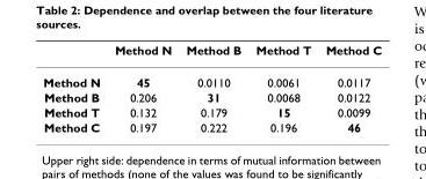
<table><thead><tr><td></td><td>Method N</td><td>Method B</td><td>Method T</td><td>Method C</td></tr></thead><tbody><tr><td>Method N</td><td>45</td><td>0.0110</td><td>0.0061</td><td>0.0117</td></tr><tr><td>Method B</td><td>0.206</td><td>31</td><td>0.0068</td><td>0.0122</td></tr><tr><td>Method T</td><td>0.132</td><td>0.179</td><td>15</td><td>0.0099</td></tr><tr><td>Method C</td><td>0.197</td><td>0.222</td><td>0.196</td><td>46</td></tr></tbody></table>